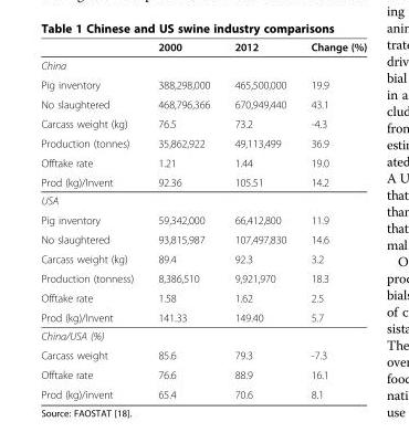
<table><thead><tr><td></td><td>2000</td><td>2012</td><td>Change (%)</td></tr></thead><tbody><tr><td colspan="4">China</td></tr><tr><td>Pig inventory</td><td>388,298,000</td><td>465,500,000</td><td>19.9</td></tr><tr><td>No slaughtered</td><td>468,796,366</td><td>670,949,440</td><td>43.1</td></tr><tr><td>Carcass weight (kg)</td><td>76.5</td><td>73.2</td><td>-4.3</td></tr><tr><td>Production (tonnes)</td><td>35,862,922</td><td>49,113,499</td><td>36.9</td></tr><tr><td>Offtake rate</td><td>1.21</td><td>1.44</td><td>19.0</td></tr><tr><td>Prod (kg)/Invent</td><td>92.36</td><td>105.51</td><td>14.2</td></tr><tr><td colspan="4">USA</td></tr><tr><td>Pig inventory</td><td>59,342,000</td><td>66,412,800</td><td>11.9</td></tr><tr><td>No slaughtered</td><td>93,815,987</td><td>107,497,830</td><td>14.6</td></tr><tr><td>Carcass weight (kg)</td><td>89.4</td><td>92.3</td><td>3.2</td></tr><tr><td>Production (tonness)</td><td>8,386,510</td><td>9,921,970</td><td>18.3</td></tr><tr><td>Offtake rate</td><td>1.58</td><td>1.62</td><td>2.5</td></tr><tr><td>Prod (kg)/Invent</td><td>141.33</td><td>149.40</td><td>5.7</td></tr><tr><td colspan="4">China/USA (%)</td></tr><tr><td>Carcass weight</td><td>85.6</td><td>79.3</td><td>-7.3</td></tr><tr><td>Offtake rate</td><td>76.6</td><td>88.9</td><td>16.1</td></tr><tr><td>Prod (kg)/invent</td><td>65.4</td><td>70.6</td><td>8.1</td></tr></tbody></table>